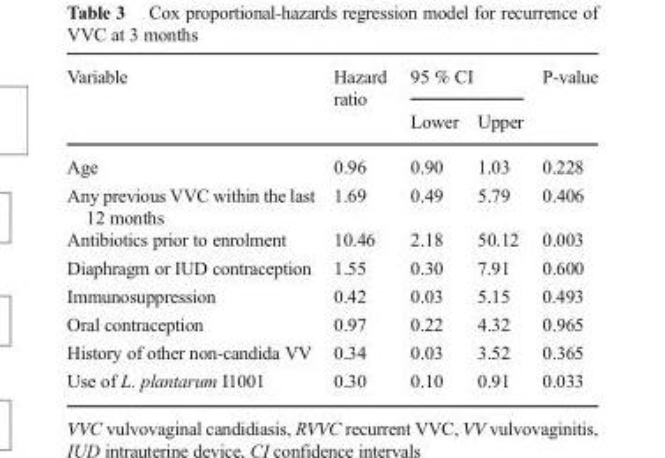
<table><thead><tr><td rowspan="2">Variable</td><td rowspan="2">Hazard ratio</td><td colspan="2">95 % CI</td><td rowspan="2">P-value</td></tr><tr><td>Lower</td><td>Upper</td></tr></thead><tbody><tr><td>Age</td><td>0.96</td><td>0.90</td><td>1.03</td><td>0.228</td></tr><tr><td>Any previous VVC within the last 12 months</td><td>1.69</td><td>0.49</td><td>5.79</td><td>0.406</td></tr><tr><td>Antibiotics prior to enrolment</td><td>10.46</td><td>2.18</td><td>50.12</td><td>0.003</td></tr><tr><td>Diaphragm or IUD contraception</td><td>1.55</td><td>0.30</td><td>7.91</td><td>0.600</td></tr><tr><td>Immunosuppression</td><td>0.42</td><td>0.03</td><td>5.15</td><td>0.493</td></tr><tr><td>Oral contraception</td><td>0.97</td><td>0.22</td><td>4.32</td><td>0.965</td></tr><tr><td>History of other non-candida VV</td><td>0.34</td><td>0.03</td><td>3.52</td><td>0.365</td></tr><tr><td>Use of L. plantarum I1001</td><td>0.30</td><td>0.10</td><td>0.91</td><td>0.033</td></tr></tbody></table>